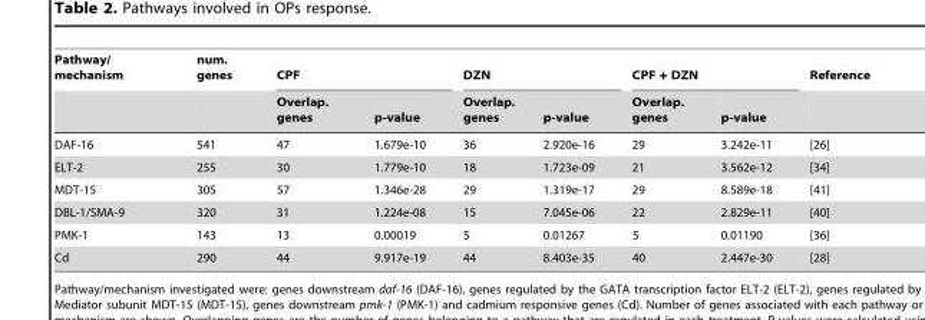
<table><thead><tr><td rowspan="2">Pathway/ mechanism</td><td rowspan="2">num. genes</td><td colspan="2">CPF</td><td colspan="2">DZN</td><td colspan="2">CPF + DZN</td><td rowspan="2">Reference</td></tr><tr><td>Overlap. genes</td><td>p-value</td><td>Overlap. genes</td><td>p-value</td><td>Overlap. genes</td><td>p-value</td></tr></thead><tbody><tr><td>DAF-16</td><td>541</td><td>47</td><td>1.679e-10</td><td>36</td><td>2.920e-16</td><td>29</td><td>3.242e-11</td><td>[26]</td></tr><tr><td>ELT-2</td><td>255</td><td>30</td><td>1.779e-10</td><td>18</td><td>1.723e-09</td><td>21</td><td>3.562e-12</td><td>[34]</td></tr><tr><td>MDT-15</td><td>305</td><td>57</td><td>1.346e-28</td><td>29</td><td>1.319e-17</td><td>29</td><td>8.589e-18</td><td>[41]</td></tr><tr><td>DBL-1/SMA-9</td><td>320</td><td>31</td><td>1.224e-08</td><td>15</td><td>7.045e-06</td><td>22</td><td>2.829e-11</td><td>[40]</td></tr><tr><td>PMK-1</td><td>143</td><td>13</td><td>0.00019</td><td>5</td><td>0.01267</td><td>5</td><td>0.01190</td><td>[36]</td></tr><tr><td>Cd</td><td>290</td><td>44</td><td>9.917e-19</td><td>44</td><td>8.403e-35</td><td>40</td><td>2.447e-30</td><td>[28]</td></tr></tbody></table>